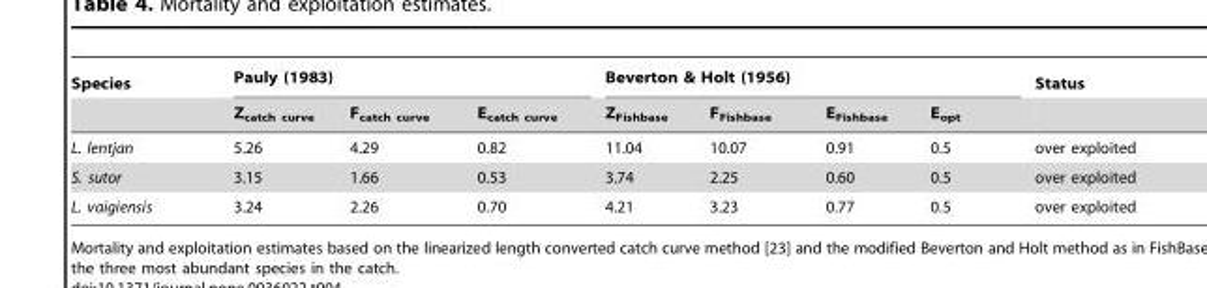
<table><thead><tr><td rowspan="2">Species</td><td colspan="3">Pauly (1983)</td><td colspan="4">Beverton &amp; Holt (1956)</td><td rowspan="2">Status</td></tr><tr><td>Z<sub>catch curve</sub></td><td>F<sub>catch curve</sub></td><td>E<sub>catch curve</sub></td><td>Z<sub>Fishbase</sub></td><td>F<sub>Fishbase</sub></td><td>E<sub>Fishbase</sub></td><td>E<sub>opt</sub></td></tr></thead><tbody><tr><td>L. lentjan</td><td>5.26</td><td>4.29</td><td>0.82</td><td>11.04</td><td>10.07</td><td>0.91</td><td>0.5</td><td>over exploited</td></tr><tr><td>S. sutor</td><td>3.15</td><td>1.66</td><td>0.53</td><td>3.74</td><td>2.25</td><td>0.60</td><td>0.5</td><td>over exploited</td></tr><tr><td>L. vaigiensis</td><td>3.24</td><td>2.26</td><td>0.70</td><td>4.21</td><td>3.23</td><td>0.77</td><td>0.5</td><td>over exploited</td></tr></tbody></table>